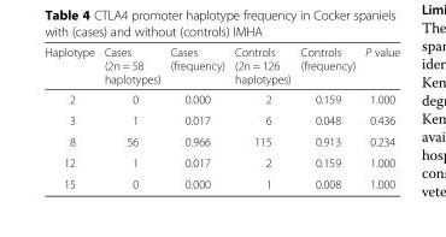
<table><thead><tr><td>Haplotype</td><td>Cases (2n = 58 haplotypes)</td><td>Cases (frequency)</td><td>Controls (2n = 126 haplotypes)</td><td>Controls (frequency)</td><td>P value</td></tr></thead><tbody><tr><td>2</td><td>0</td><td>0.000</td><td>2</td><td>0.159</td><td>1.000</td></tr><tr><td>3</td><td>1</td><td>0.017</td><td>6</td><td>0.048</td><td>0.436</td></tr><tr><td>8</td><td>56</td><td>0.966</td><td>115</td><td>0.913</td><td>0.234</td></tr><tr><td>12</td><td>1</td><td>0.017</td><td>2</td><td>0.159</td><td>1.000</td></tr><tr><td>15</td><td>0</td><td>0.000</td><td>1</td><td>0.008</td><td>1.000</td></tr></tbody></table>